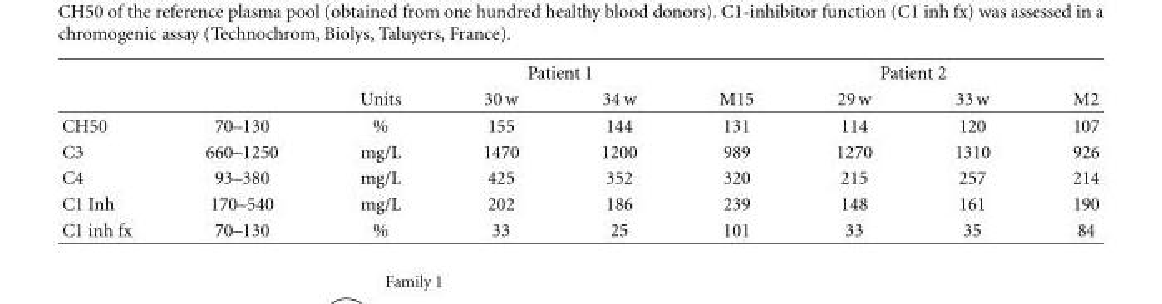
<table><thead><tr><td rowspan="2"></td><td rowspan="2"></td><td rowspan="2">Units</td><td colspan="2">Patient 1</td><td rowspan="2">M15</td><td colspan="2">Patient 2</td><td rowspan="2">M2</td></tr><tr><td>30 w</td><td>34 w</td><td>29 w</td><td>33 w</td></tr></thead><tbody><tr><td>CH50</td><td>70–130</td><td>%</td><td>155</td><td>144</td><td>131</td><td>114</td><td>120</td><td>107</td></tr><tr><td>C3</td><td>660–1250</td><td>mg/L</td><td>1470</td><td>1200</td><td>989</td><td>1270</td><td>1310</td><td>926</td></tr><tr><td>C4</td><td>93–380</td><td>mg/L</td><td>425</td><td>352</td><td>320</td><td>215</td><td>257</td><td>214</td></tr><tr><td>C1 Inh</td><td>170–540</td><td>mg/L</td><td>202</td><td>186</td><td>239</td><td>148</td><td>161</td><td>190</td></tr><tr><td>C1 inh fx</td><td>70–130</td><td>%</td><td>33</td><td>25</td><td>101</td><td>33</td><td>35</td><td>84</td></tr></tbody></table>